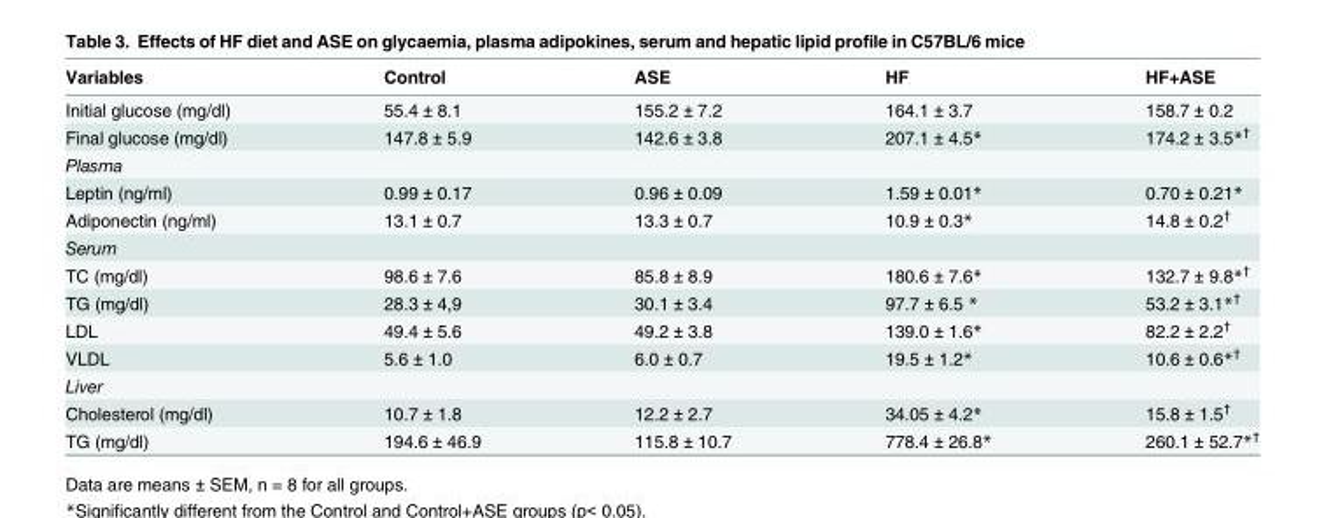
<table><thead><tr><td>Variables</td><td>Control</td><td>ASE</td><td>HF</td><td>HF+ASE</td></tr></thead><tbody><tr><td>Initial glucose (mg/dl)</td><td>55.4 ± 8.1</td><td>155.2 ± 7.2</td><td>164.1 ± 3.7</td><td>158.7 ± 0.2</td></tr><tr><td>Final glucose (mg/dl)</td><td>147.8 ± 5.9</td><td>142.6 ± 3.8</td><td>207.1 ± 4.5*</td><td>174.2 ± 3.5*<sup>†</sup></td></tr><tr><td colspan="5">Plasma</td></tr><tr><td>Leptin (ng/ml)</td><td>0.99 ± 0.17</td><td>0.96 ± 0.09</td><td>1.59 ± 0.01*</td><td>0.70 ± 0.21*</td></tr><tr><td>Adiponectin (ng/ml)</td><td>13.1 ± 0.7</td><td>13.3 ± 0.7</td><td>10.9 ± 0.3*</td><td>14.8 ± 0.2<sup>†</sup></td></tr><tr><td colspan="5">Serum</td></tr><tr><td>TC (mg/dl)</td><td>98.6 ± 7.6</td><td>85.8 ± 8.9</td><td>180.6 ± 7.6*</td><td>132.7 ± 9.8*<sup>†</sup></td></tr><tr><td>TG (mg/dl)</td><td>28.3 ± 4,9</td><td>30.1 ± 3.4</td><td>97.7 ± 6.5 *</td><td>53.2 ± 3.1*<sup>†</sup></td></tr><tr><td>LDL</td><td>49.4 ± 5.6</td><td>49.2 ± 3.8</td><td>139.0 ± 1.6*</td><td>82.2 ± 2.2<sup>†</sup></td></tr><tr><td>VLDL</td><td>5.6 ± 1.0</td><td>6.0 ± 0.7</td><td>19.5 ± 1.2*</td><td>10.6 ± 0.6*<sup>†</sup></td></tr><tr><td colspan="5">Liver</td></tr><tr><td>Cholesterol (mg/dl)</td><td>10.7 ± 1.8</td><td>12.2 ± 2.7</td><td>34.05 ± 4.2*</td><td>15.8 ± 1.5<sup>†</sup></td></tr><tr><td>TG (mg/dl)</td><td>194.6 ± 46.9</td><td>115.8 ± 10.7</td><td>778.4 ± 26.8*</td><td>260.1 ± 52.7*<sup>†</sup></td></tr></tbody></table>